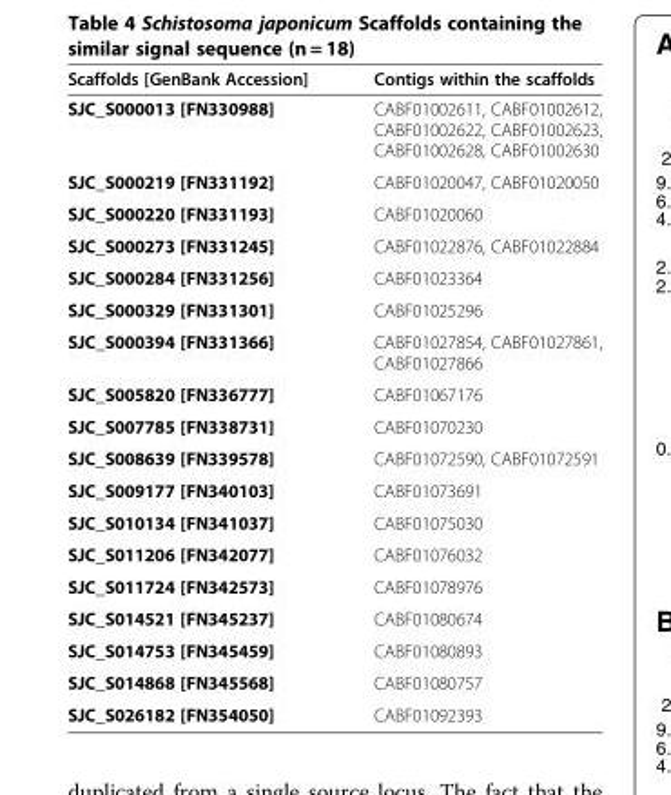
<table><thead><tr><td>Scaffolds [GenBank Accession]</td><td>Contigs within the scaffolds</td></tr></thead><tbody><tr><td>SJC_S000013 [FN330988]</td><td>CABF01002611, CABF01002612, CABF01002622, CABF01002623, CABF01002628, CABF01002630</td></tr><tr><td>SJC_S000219 [FN331192]</td><td>CABF01020047, CABF01020050</td></tr><tr><td>SJC_S000220 [FN331193]</td><td>CABF01020060</td></tr><tr><td>SJC_S000273 [FN331245]</td><td>CABF01022876, CABF01022884</td></tr><tr><td>SJC_S000284 [FN331256]</td><td>CABF01023364</td></tr><tr><td>SJC_S000329 [FN331301]</td><td>CABF01025296</td></tr><tr><td>SJC_S000394 [FN331366]</td><td>CABF01027854, CABF01027861, CABF01027866</td></tr><tr><td>SJC_S005820 [FN336777]</td><td>CABF01067176</td></tr><tr><td>SJC_S007785 [FN338731]</td><td>CABF01070230</td></tr><tr><td>SJC_S008639 [FN339578]</td><td>CABF01072590, CABF01072591</td></tr><tr><td>SJC_S009177 [FN340103]</td><td>CABF01073691</td></tr><tr><td>SJC_S010134 [FN341037]</td><td>CABF01075030</td></tr><tr><td>SJC_S011206 [FN342077]</td><td>CABF01076032</td></tr><tr><td>SJC_S011724 [FN342573]</td><td>CABF01078976</td></tr><tr><td>SJC_S014521 [FN345237]</td><td>CABF01080674</td></tr><tr><td>SJC_S014753 [FN345459]</td><td>CABF01080893</td></tr><tr><td>SJC_S014868 [FN345568]</td><td>CABF01080757</td></tr><tr><td>SJC_S026182 [FN354050]</td><td>CABF01092393</td></tr></tbody></table>